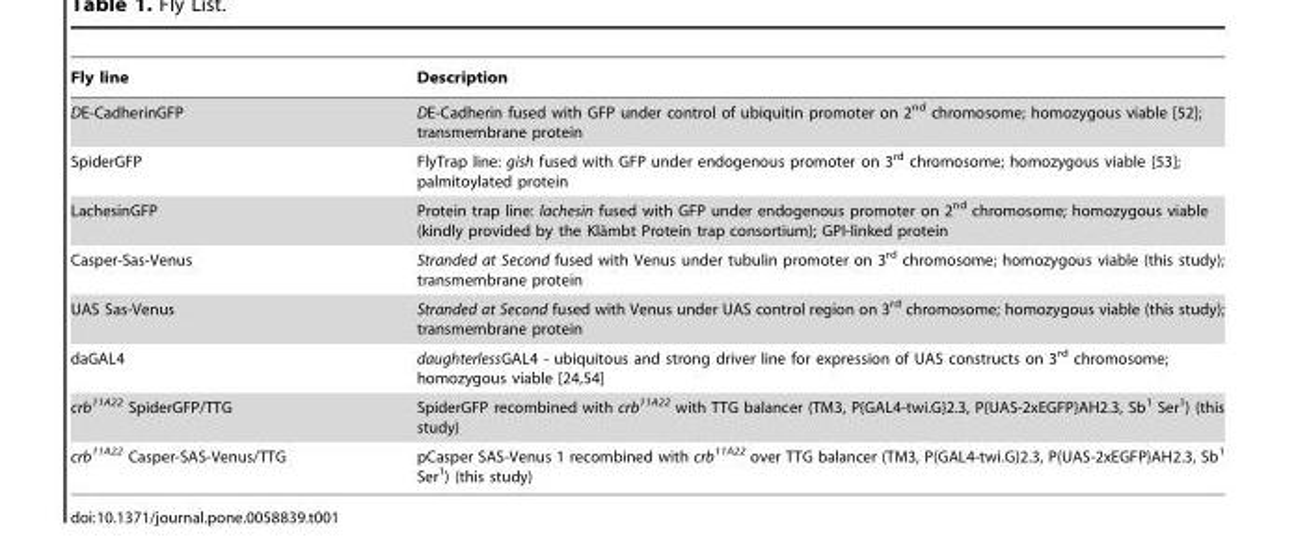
<table><thead><tr><td>Fly line</td><td>Description</td></tr></thead><tbody><tr><td>DE-CadherinGFP</td><td>DE-Cadherin fused with GFP under control of ubiquitin promoter on 2nd chromosome; homozygous viable [52]; transmembrane protein</td></tr><tr><td>SpiderGFP</td><td>FlyTrap line: gish fused with GFP under endogenous promoter on 3rd chromosome; homozygous viable [53]; palmitoylated protein</td></tr><tr><td>LachesinGFP</td><td>Protein trap line: lachesin fused with GFP under endogenous promoter on 2nd chromosome; homozygous viable (kindly provided by the Kla¨mbt Protein trap consortium); GPI-linked protein</td></tr><tr><td>Casper-Sas-Venus</td><td>Stranded at Second fused with Venus under tubulin promoter on 3<sup>rd</sup> chromosome; homozygous viable (this study); transmembrane protein</td></tr><tr><td>UAS Sas-Venus</td><td>Stranded at Second fused with Venus under UAS control region on 3<sup>rd</sup> chromosome; homozygous viable (this study); transmembrane protein</td></tr><tr><td>daGAL4</td><td>daughterlessGAL4 - ubiquitous and strong driver line for expression of UAS constructs on 3rd chromosome; homozygous viable [24,54]</td></tr><tr><td>crb<sup>11A22</sup> SpiderGFP/TTG</td><td>SpiderGFP recombined with crb<sup>11A22</sup> with TTG balancer (TM3, P{GAL4-twi.G}2.3, P{UAS-2xEGFP}AH2.3, Sb<sup>1</sup> Ser<sup>1</sup>) (this study)</td></tr><tr><td>crb<sup>11A22</sup> Casper-SAS-Venus/TTG</td><td>pCasper SAS-Venus 1 recombined with crb<sup>11A22</sup> over TTG balancer (TM3, P{GAL4-twi.G}2.3, P{UAS-2xEGFP}AH2.3, Sb<sup>1</sup> Ser<sup>1</sup>) (this study)</td></tr></tbody></table>